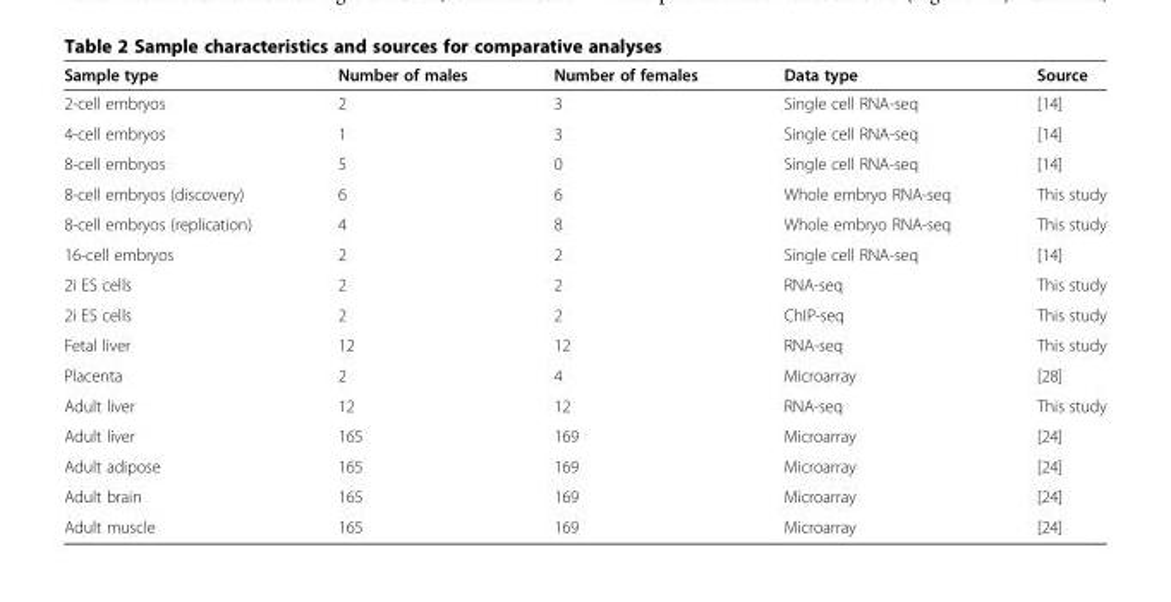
<table><thead><tr><td>Sample type</td><td>Number of males</td><td>Number of females</td><td>Data type</td><td>Source</td></tr></thead><tbody><tr><td>2-cell embryos</td><td>2</td><td>3</td><td>Single cell RNA-seq</td><td>[14]</td></tr><tr><td>4-cell embryos</td><td>1</td><td>3</td><td>Single cell RNA-seq</td><td>[14]</td></tr><tr><td>8-cell embryos</td><td>5</td><td>0</td><td>Single cell RNA-seq</td><td>[14]</td></tr><tr><td>8-cell embryos (discovery)</td><td>6</td><td>6</td><td>Whole embryo RNA-seq</td><td>This study</td></tr><tr><td>8-cell embryos (replication)</td><td>4</td><td>8</td><td>Whole embryo RNA-seq</td><td>This study</td></tr><tr><td>16-cell embryos</td><td>2</td><td>2</td><td>Single cell RNA-seq</td><td>[14]</td></tr><tr><td>2i ES cells</td><td>2</td><td>2</td><td>RNA-seq</td><td>This study</td></tr><tr><td>2i ES cells</td><td>2</td><td>2</td><td>ChIP-seq</td><td>This study</td></tr><tr><td>Fetal liver</td><td>12</td><td>12</td><td>RNA-seq</td><td>This study</td></tr><tr><td>Placenta</td><td>2</td><td>4</td><td>Microarray</td><td>[28]</td></tr><tr><td>Adult liver</td><td>12</td><td>12</td><td>RNA-seq</td><td>This study</td></tr><tr><td>Adult liver</td><td>165</td><td>169</td><td>Microarray</td><td>[24]</td></tr><tr><td>Adult adipose</td><td>165</td><td>169</td><td>Microarray</td><td>[24]</td></tr><tr><td>Adult brain</td><td>165</td><td>169</td><td>Microarray</td><td>[24]</td></tr><tr><td>Adult muscle</td><td>165</td><td>169</td><td>Microarray</td><td>[24]</td></tr></tbody></table>